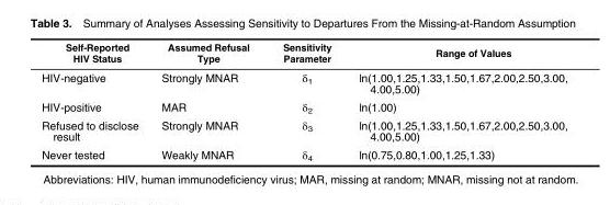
<table><thead><tr><td>Self-Reported HIV Status</td><td>Assumed Refusal Type</td><td>Sensitivity Parameter</td><td>Range of Values</td></tr></thead><tbody><tr><td>HIV-negative</td><td>Strongly MNAR</td><td>δ<sub>1</sub></td><td>ln(1.00,1.25,1.33,1.50,1.67,2.00,2.50,3.00, 4.00,5.00)</td></tr><tr><td>HIV-positive</td><td>MAR</td><td>δ<sub>2</sub></td><td>ln(1.00)</td></tr><tr><td>Refused to disclose result</td><td>Strongly MNAR</td><td>δ<sub>3</sub></td><td>ln(1.00,1.25,1.33,1.50,1.67,2.00,2.50,3.00, 4.00,5.00)</td></tr><tr><td>Never tested</td><td>Weakly MNAR</td><td>δ<sub>4</sub></td><td>ln(0.75,0.80,1.00,1.25,1.33)</td></tr></tbody></table>